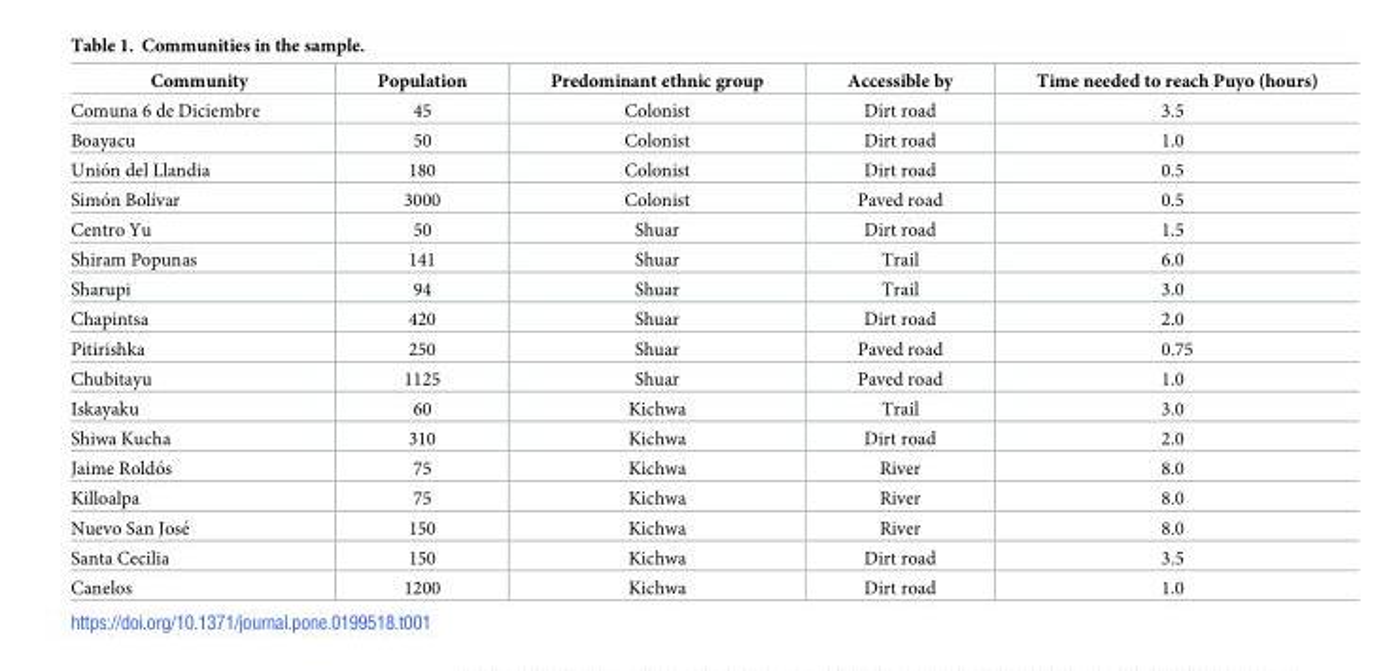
<table><thead><tr><td>Community</td><td>Population</td><td>Predominant ethnic group</td><td>Accessible by</td><td>Time needed to reach Puyo (hours)</td></tr></thead><tbody><tr><td>Comuna 6 de Diciembre</td><td>45</td><td>Colonist</td><td>Dirt road</td><td>3.5</td></tr><tr><td>Boayacu</td><td>50</td><td>Colonist</td><td>Dirt road</td><td>1.0</td></tr><tr><td>Unio´n del Llandia</td><td>180</td><td>Colonist</td><td>Dirt road</td><td>0.5</td></tr><tr><td>Simo´n Bolı´var</td><td>3000</td><td>Colonist</td><td>Paved road</td><td>0.5</td></tr><tr><td>Centro Yu</td><td>50</td><td>Shuar</td><td>Dirt road</td><td>1.5</td></tr><tr><td>Shiram Popunas</td><td>141</td><td>Shuar</td><td>Trail</td><td>6.0</td></tr><tr><td>Sharupi</td><td>94</td><td>Shuar</td><td>Trail</td><td>3.0</td></tr><tr><td>Chapintsa</td><td>420</td><td>Shuar</td><td>Dirt road</td><td>2.0</td></tr><tr><td>Pitirishka</td><td>250</td><td>Shuar</td><td>Paved road</td><td>0.75</td></tr><tr><td>Chubitayu</td><td>1125</td><td>Shuar</td><td>Paved road</td><td>1.0</td></tr><tr><td>Iskayaku</td><td>60</td><td>Kichwa</td><td>Trail</td><td>3.0</td></tr><tr><td>Shiwa Kucha</td><td>310</td><td>Kichwa</td><td>Dirt road</td><td>2.0</td></tr><tr><td>Jaime Roldo´s</td><td>75</td><td>Kichwa</td><td>River</td><td>8.0</td></tr><tr><td>Killoalpa</td><td>75</td><td>Kichwa</td><td>River</td><td>8.0</td></tr><tr><td>Nuevo San Jose´</td><td>150</td><td>Kichwa</td><td>River</td><td>8.0</td></tr><tr><td>Santa Cecilia</td><td>150</td><td>Kichwa</td><td>Dirt road</td><td>3.5</td></tr><tr><td>Canelos</td><td>1200</td><td>Kichwa</td><td>Dirt road</td><td>1.0</td></tr></tbody></table>